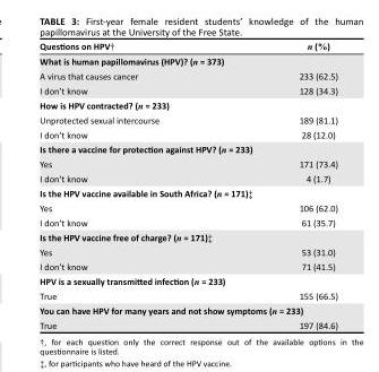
<table><thead><tr><td>Questions on HPV†</td><td>n (%)</td></tr></thead><tbody><tr><td colspan="2">What is human papillomavirus (HPV)? (n = 373)</td></tr><tr><td>A virus that causes cancer</td><td>233 (62.5)</td></tr><tr><td>I don’t know</td><td>128 (34.3)</td></tr><tr><td colspan="2">How is HPV contracted? (n = 233)</td></tr><tr><td>Unprotected sexual intercourse</td><td>189 (81.1)</td></tr><tr><td>I don’t know</td><td>28 (12.0)</td></tr><tr><td colspan="2">Is there a vaccine for protection against HPV? (n = 233)</td></tr><tr><td>Yes</td><td>171 (73.4)</td></tr><tr><td>I don’t know</td><td>4 (1.7)</td></tr><tr><td colspan="2">Is the HPV vaccine available in South Africa? (n = 171)‡</td></tr><tr><td>Yes</td><td>106 (62.0)</td></tr><tr><td>I don’t know</td><td>61 (35.7)</td></tr><tr><td colspan="2">Is the HPV vaccine free of charge? (n = 171)‡</td></tr><tr><td>Yes</td><td>53 (31.0)</td></tr><tr><td>I don’t know</td><td>71 (41.5)</td></tr><tr><td colspan="2">HPV is a sexually transmitted infection (n = 233)</td></tr><tr><td>True</td><td>155 (66.5)</td></tr><tr><td colspan="2">You can have HPV for many years and not show symptoms (n = 233)</td></tr><tr><td>True</td><td>197 (84.6)</td></tr></tbody></table>